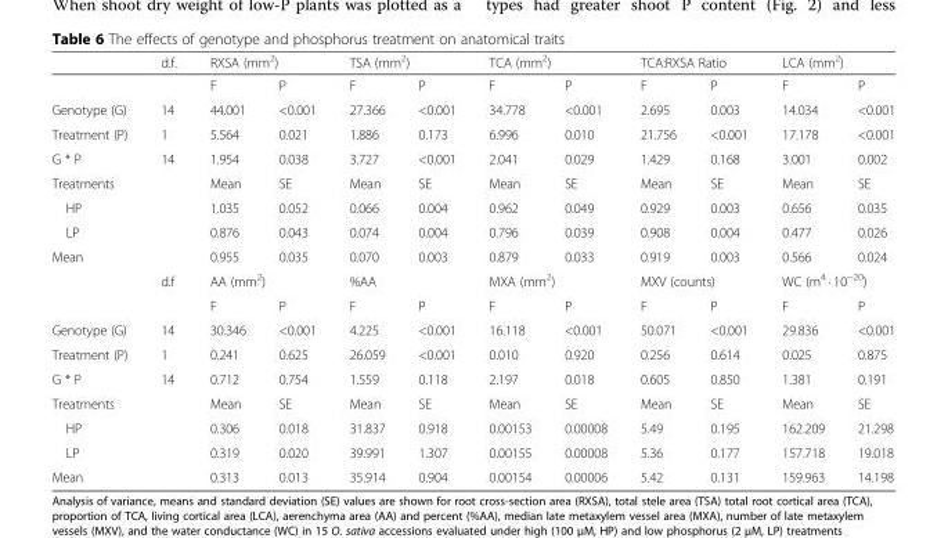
<table><thead><tr><td rowspan="2"></td><td rowspan="2">d.f.</td><td colspan="2">RXSA (mm<sup>2</sup>)</td><td colspan="2">TSA (mm<sup>2</sup>)</td><td colspan="2">TCA (mm<sup>2</sup>)</td><td colspan="2">TCA:RXSA Ratio</td><td colspan="2">LCA (mm<sup>2</sup>)</td></tr><tr><td>F</td><td>P</td><td>F</td><td>P</td><td>F</td><td>P</td><td>F</td><td>P</td><td>F</td><td>P</td></tr></thead><tbody><tr><td>Genotype (G)</td><td>14</td><td>44.001</td><td>&lt;0.001</td><td>27.366</td><td>&lt;0.001</td><td>34.778</td><td>&lt;0.001</td><td>2.695</td><td>0.003</td><td>14.034</td><td>&lt;0.001</td></tr><tr><td>Treatment (P)</td><td>1</td><td>5.564</td><td>0.021</td><td>1.886</td><td>0.173</td><td>6.996</td><td>0.010</td><td>21.756</td><td>&lt;0.001</td><td>17.178</td><td>&lt;0.001</td></tr><tr><td>G * P</td><td>14</td><td>1.954</td><td>0.038</td><td>3.727</td><td>&lt;0.001</td><td>2.041</td><td>0.029</td><td>1.429</td><td>0.168</td><td>3.001</td><td>0.002</td></tr><tr><td>Treatments</td><td></td><td>Mean</td><td>SE</td><td>Mean</td><td>SE</td><td>Mean</td><td>SE</td><td>Mean</td><td>SE</td><td>Mean</td><td>SE</td></tr><tr><td>HP</td><td></td><td>1.035</td><td>0.052</td><td>0.066</td><td>0.004</td><td>0.962</td><td>0.049</td><td>0.929</td><td>0.003</td><td>0.656</td><td>0.035</td></tr><tr><td>LP</td><td></td><td>0.876</td><td>0.043</td><td>0.074</td><td>0.004</td><td>0.796</td><td>0.039</td><td>0.908</td><td>0.004</td><td>0.477</td><td>0.026</td></tr><tr><td rowspan="3">Mean</td><td></td><td>0.955</td><td>0.035</td><td>0.070</td><td>0.003</td><td>0.879</td><td>0.033</td><td>0.919</td><td>0.003</td><td>0.566</td><td>0.024</td></tr><tr><td>d.f</td><td colspan="2">AA (mm<sup>2</sup>)</td><td colspan="2">%AA</td><td colspan="2">MXA (mm<sup>2</sup>)</td><td colspan="2">MXV (counts)</td><td colspan="2">WC (m<sup>4</sup> · 10<sup>−20</sup>)</td></tr><tr><td></td><td>F</td><td>P</td><td>F</td><td>P</td><td>F</td><td>P</td><td>F</td><td>P</td><td>F</td><td>P</td></tr><tr><td>Genotype (G)</td><td>14</td><td>30.346</td><td>&lt;0.001</td><td>4.225</td><td>&lt;0.001</td><td>16.118</td><td>&lt;0.001</td><td>50.071</td><td>&lt;0.001</td><td>29.836</td><td>&lt;0.001</td></tr><tr><td>Treatment (P)</td><td>1</td><td>0.241</td><td>0.625</td><td>26.059</td><td>&lt;0.001</td><td>0.010</td><td>0.920</td><td>0.256</td><td>0.614</td><td>0.025</td><td>0.875</td></tr><tr><td>G * P</td><td>14</td><td>0.712</td><td>0.754</td><td>1.559</td><td>0.118</td><td>2.197</td><td>0.018</td><td>0.605</td><td>0.850</td><td>1.381</td><td>0.191</td></tr><tr><td>Treatments</td><td></td><td>Mean</td><td>SE</td><td>Mean</td><td>SE</td><td>Mean</td><td>SE</td><td>Mean</td><td>SE</td><td>Mean</td><td>SE</td></tr><tr><td>HP</td><td></td><td>0.306</td><td>0.018</td><td>31.837</td><td>0.918</td><td>0.00153</td><td>0.00008</td><td>5.49</td><td>0.195</td><td>162.209</td><td>21.298</td></tr><tr><td>LP</td><td></td><td>0.319</td><td>0.020</td><td>39.991</td><td>1.307</td><td>0.00155</td><td>0.00008</td><td>5.36</td><td>0.177</td><td>157.718</td><td>19.018</td></tr><tr><td>Mean</td><td></td><td>0.313</td><td>0.013</td><td>35.914</td><td>0.904</td><td>0.00154</td><td>0.00006</td><td>5.42</td><td>0.131</td><td>159.963</td><td>14.198</td></tr></tbody></table>